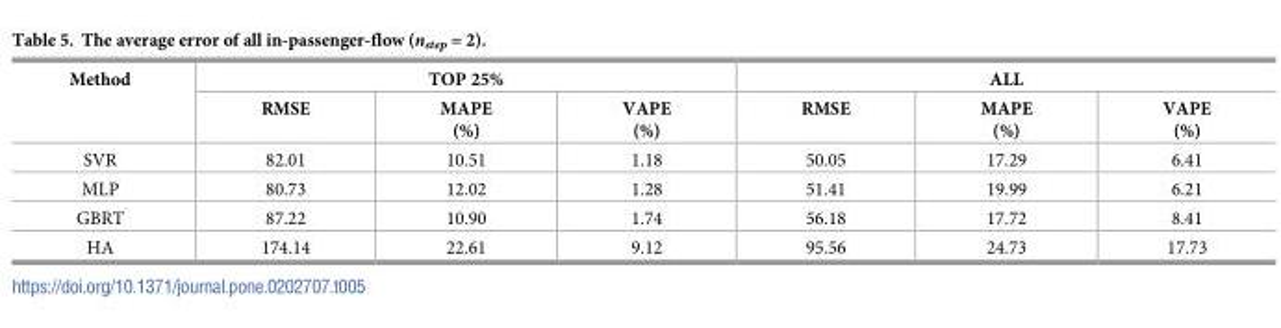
<table><thead><tr><td rowspan="2">Method</td><td colspan="3">TOP 25%</td><td colspan="3">ALL</td></tr><tr><td>RMSE</td><td>MAPE (%)</td><td>VAPE (%)</td><td>RMSE</td><td>MAPE (%)</td><td>VAPE (%)</td></tr></thead><tbody><tr><td>SVR</td><td>82.01</td><td>10.51</td><td>1.18</td><td>50.05</td><td>17.29</td><td>6.41</td></tr><tr><td>MLP</td><td>80.73</td><td>12.02</td><td>1.28</td><td>51.41</td><td>19.99</td><td>6.21</td></tr><tr><td>GBRT</td><td>87.22</td><td>10.90</td><td>1.74</td><td>56.18</td><td>17.72</td><td>8.41</td></tr><tr><td>HA</td><td>174.14</td><td>22.61</td><td>9.12</td><td>95.56</td><td>24.73</td><td>17.73</td></tr></tbody></table>